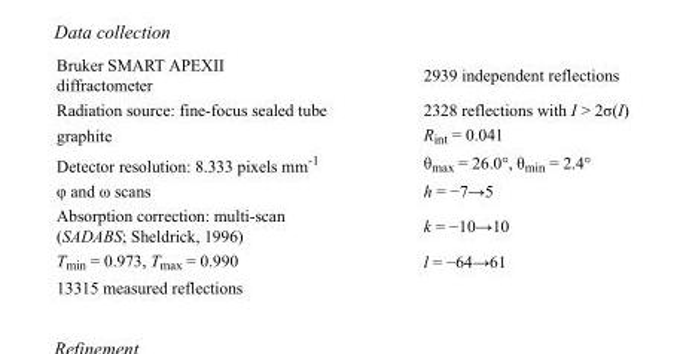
<table><tbody><tr><td>Bruker SMART APEXII diffractometer</td><td>2939 independent reflections</td></tr><tr><td>Radiation source: fine-focus sealed tube</td><td>2328 reflections with I &gt; 2σ(I)</td></tr><tr><td>graphite</td><td>R<sub>int</sub> = 0.041</td></tr><tr><td>Detector resolution: 8.333 pixels mm<sup>-1</sup></td><td>θ<sub>max</sub> = 26.0°, θ<sub>min</sub> = 2.4°</td></tr><tr><td>φ and ω scans</td><td>h = −7→5</td></tr><tr><td>Absorption correction: multi-scan (SADABS; Sheldrick, 1996)</td><td>k = −10→10</td></tr><tr><td>T<sub>min</sub> = 0.973, T<sub>max</sub> = 0.990</td><td>l = −64→61</td></tr><tr><td>13315 measured reflections</td><td></td></tr></tbody></table>